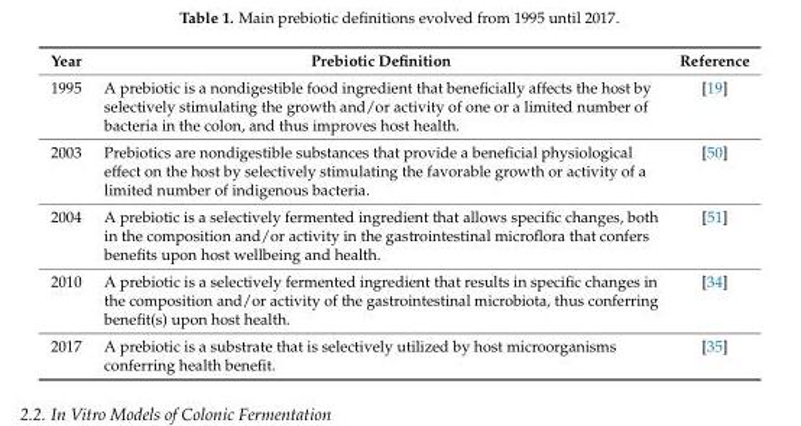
<table><thead><tr><td>Year</td><td>Prebiotic Definition</td><td>Reference</td></tr></thead><tbody><tr><td>1995</td><td>A prebiotic is a nondigestible food ingredient that beneficially affects the host by selectively stimulating the growth and/or activity of one or a limited number of bacteria in the colon, and thus improves host health.</td><td>[19]</td></tr><tr><td>2003</td><td>Prebiotics are nondigestible substances that provide a beneficial physiological effect on the host by selectively stimulating the favorable growth or activity of a limited number of indigenous bacteria.</td><td>[50]</td></tr><tr><td>2004</td><td>A prebiotic is a selectively fermented ingredient that allows specific changes, both in the composition and/or activity in the gastrointestinal microflora that confers benefits upon host wellbeing and health.</td><td>[51]</td></tr><tr><td>2010</td><td>A prebiotic is a selectively fermented ingredient that results in specific changes in the composition and/or activity of the gastrointestinal microbiota, thus conferring benefit(s) upon host health.</td><td>[34]</td></tr><tr><td>2017</td><td>A prebiotic is a substrate that is selectively utilized by host microorganisms conferring health benefit.</td><td>[35]</td></tr></tbody></table>